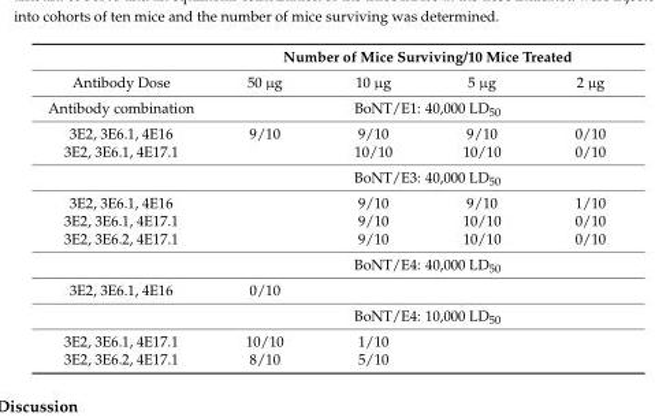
<table><thead><tr><td rowspan="2">Antibody Dose</td><td colspan="4">Number of Mice Surviving/10 Mice Treated</td></tr><tr><td>50 µg</td><td>10 µg</td><td>5 µg</td><td>2 µg</td></tr></thead><tbody><tr><td>Antibody combination</td><td colspan="4">BoNT/E1: 40,000 LD<sub>50</sub></td></tr><tr><td>3E2, 3E6.1, 4E16</td><td>9/10</td><td>9/10</td><td>9/10</td><td>0/10</td></tr><tr><td rowspan="2">3E2, 3E6.1, 4E17.1</td><td></td><td>10/10</td><td>10/10</td><td>0/10</td></tr><tr><td colspan="4">BoNT/E3: 40,000 LD<sub>50</sub></td></tr><tr><td>3E2, 3E6.1, 4E16</td><td></td><td>9/10</td><td>9/10</td><td>1/10</td></tr><tr><td>3E2, 3E6.1, 4E17.1</td><td></td><td>9/10</td><td>10/10</td><td>0/10</td></tr><tr><td rowspan="2">3E2, 3E6.2, 4E17.1</td><td></td><td>9/10</td><td>10/10</td><td>0/10</td></tr><tr><td colspan="4">BoNT/E4: 40,000 LD<sub>50</sub></td></tr><tr><td rowspan="2">3E2, 3E6.1, 4E16</td><td>0/10</td><td></td><td></td><td></td></tr><tr><td colspan="4">BoNT/E4: 10,000 LD<sub>50</sub></td></tr><tr><td>3E2, 3E6.1, 4E17.1</td><td>10/10</td><td>1/10</td><td></td><td></td></tr><tr><td>3E2, 3E6.2, 4E17.1</td><td>8/10</td><td>5/10</td><td></td><td></td></tr></tbody></table>